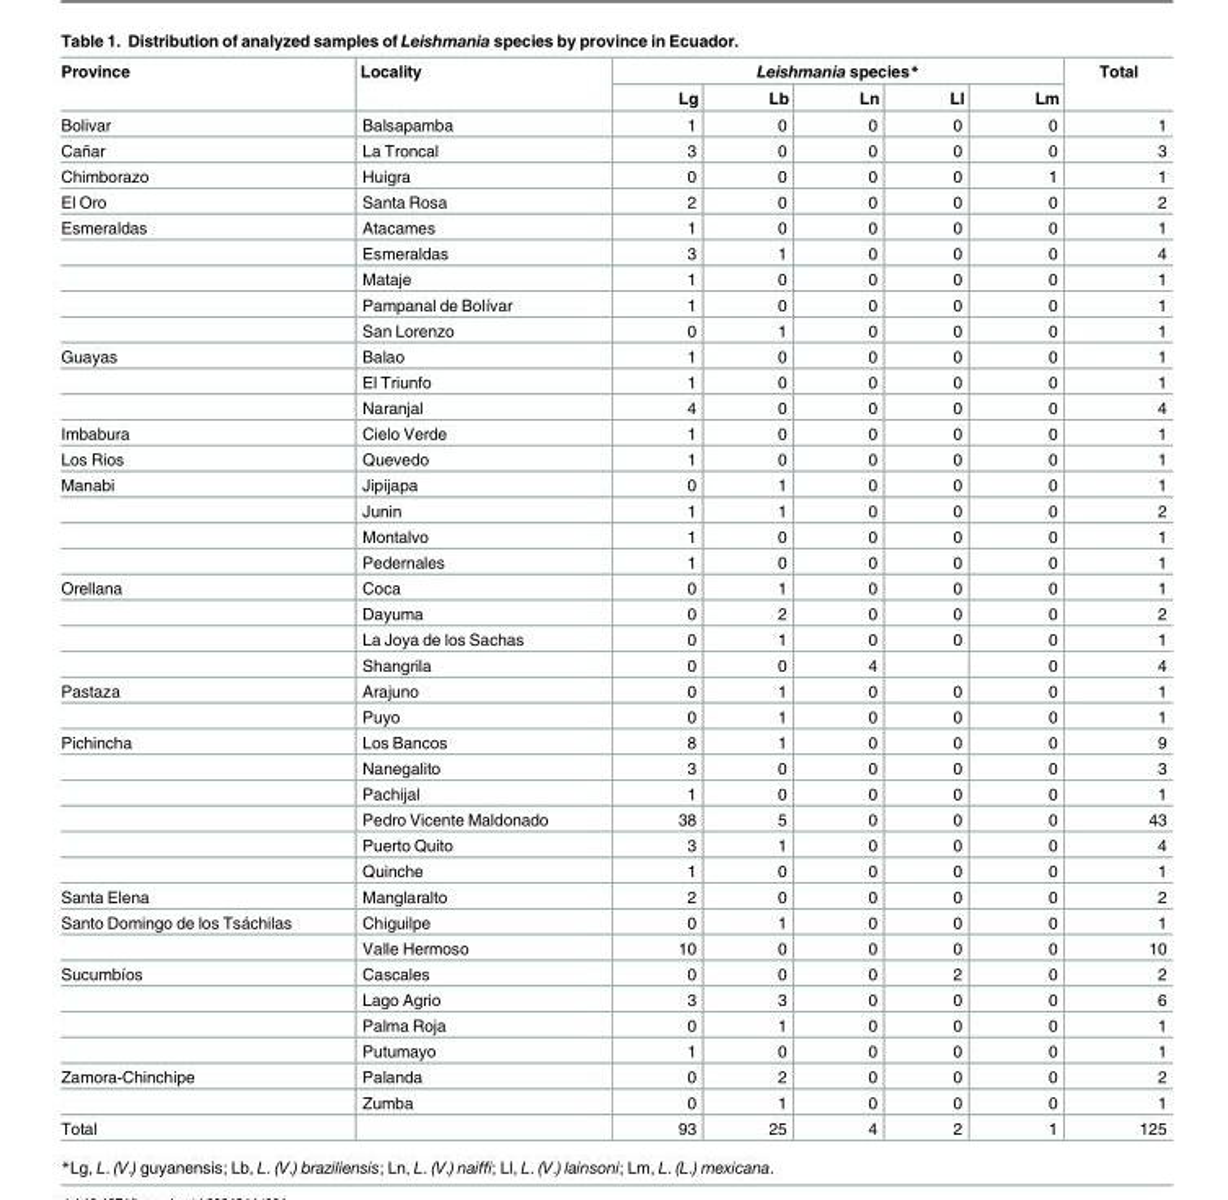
<table><thead><tr><td rowspan="2">Province</td><td rowspan="2">Locality</td><td colspan="5">Leishmania species*</td><td rowspan="2">Total</td></tr><tr><td>Lg</td><td>Lb</td><td>Ln</td><td>Ll</td><td>Lm</td></tr></thead><tbody><tr><td>Bolivar</td><td>Balsapamba</td><td>1</td><td>0</td><td>0</td><td>0</td><td>0</td><td>1</td></tr><tr><td>Cañar</td><td>La Troncal</td><td>3</td><td>0</td><td>0</td><td>0</td><td>0</td><td>3</td></tr><tr><td>Chimborazo</td><td>Huigra</td><td>0</td><td>0</td><td>0</td><td>0</td><td>1</td><td>1</td></tr><tr><td>El Oro</td><td>Santa Rosa</td><td>2</td><td>0</td><td>0</td><td>0</td><td>0</td><td>2</td></tr><tr><td rowspan="5">Esmeraldas</td><td>Atacames</td><td>1</td><td>0</td><td>0</td><td>0</td><td>0</td><td>1</td></tr><tr><td>Esmeraldas</td><td>3</td><td>1</td><td>0</td><td>0</td><td>0</td><td>4</td></tr><tr><td>Mataje</td><td>1</td><td>0</td><td>0</td><td>0</td><td>0</td><td>1</td></tr><tr><td>Pampanal de Bolívar</td><td>1</td><td>0</td><td>0</td><td>0</td><td>0</td><td>1</td></tr><tr><td>San Lorenzo</td><td>0</td><td>1</td><td>0</td><td>0</td><td>0</td><td>1</td></tr><tr><td rowspan="3">Guayas</td><td>Balao</td><td>1</td><td>0</td><td>0</td><td>0</td><td>0</td><td>1</td></tr><tr><td>El Triunfo</td><td>1</td><td>0</td><td>0</td><td>0</td><td>0</td><td>1</td></tr><tr><td>Naranjal</td><td>4</td><td>0</td><td>0</td><td>0</td><td>0</td><td>4</td></tr><tr><td>Imbabura</td><td>Cielo Verde</td><td>1</td><td>0</td><td>0</td><td>0</td><td>0</td><td>1</td></tr><tr><td>Los Rios</td><td>Quevedo</td><td>1</td><td>0</td><td>0</td><td>0</td><td>0</td><td>1</td></tr><tr><td rowspan="4">Manabi</td><td>Jipijapa</td><td>0</td><td>1</td><td>0</td><td>0</td><td>0</td><td>1</td></tr><tr><td>Junin</td><td>1</td><td>1</td><td>0</td><td>0</td><td>0</td><td>2</td></tr><tr><td>Montalvo</td><td>1</td><td>0</td><td>0</td><td>0</td><td>0</td><td>1</td></tr><tr><td>Pedernales</td><td>1</td><td>0</td><td>0</td><td>0</td><td>0</td><td>1</td></tr><tr><td rowspan="4">Orellana</td><td>Coca</td><td>0</td><td>1</td><td>0</td><td>0</td><td>0</td><td>1</td></tr><tr><td>Dayuma</td><td>0</td><td>2</td><td>0</td><td>0</td><td>0</td><td>2</td></tr><tr><td>La Joya de los Sachas</td><td>0</td><td>1</td><td>0</td><td>0</td><td>0</td><td>1</td></tr><tr><td>Shangrila</td><td>0</td><td>0</td><td>4</td><td></td><td>0</td><td>4</td></tr><tr><td rowspan="2">Pastaza</td><td>Arajuno</td><td>0</td><td>1</td><td>0</td><td>0</td><td>0</td><td>1</td></tr><tr><td>Puyo</td><td>0</td><td>1</td><td>0</td><td>0</td><td>0</td><td>1</td></tr><tr><td rowspan="6">Pichincha</td><td>Los Bancos</td><td>8</td><td>1</td><td>0</td><td>0</td><td>0</td><td>9</td></tr><tr><td>Nanegalito</td><td>3</td><td>0</td><td>0</td><td>0</td><td>0</td><td>3</td></tr><tr><td>Pachijal</td><td>1</td><td>0</td><td>0</td><td>0</td><td>0</td><td>1</td></tr><tr><td>Pedro Vicente Maldonado</td><td>38</td><td>5</td><td>0</td><td>0</td><td>0</td><td>43</td></tr><tr><td>Puerto Quito</td><td>3</td><td>1</td><td>0</td><td>0</td><td>0</td><td>4</td></tr><tr><td>Quinche</td><td>1</td><td>0</td><td>0</td><td>0</td><td>0</td><td>1</td></tr><tr><td>Santa Elena</td><td>Manglaralto</td><td>2</td><td>0</td><td>0</td><td>0</td><td>0</td><td>2</td></tr><tr><td rowspan="2">Santo Domingo de los Tsáchilas</td><td>Chiguilpe</td><td>0</td><td>1</td><td>0</td><td>0</td><td>0</td><td>1</td></tr><tr><td>Valle Hermoso</td><td>10</td><td>0</td><td>0</td><td>0</td><td>0</td><td>10</td></tr><tr><td rowspan="4">Sucumbíos</td><td>Cascales</td><td>0</td><td>0</td><td>0</td><td>2</td><td>0</td><td>2</td></tr><tr><td>Lago Agrio</td><td>3</td><td>3</td><td>0</td><td>0</td><td>0</td><td>6</td></tr><tr><td>Palma Roja</td><td>0</td><td>1</td><td>0</td><td>0</td><td>0</td><td>1</td></tr><tr><td>Putumayo</td><td>1</td><td>0</td><td>0</td><td>0</td><td>0</td><td>1</td></tr><tr><td rowspan="2">Zamora-Chinchipe</td><td>Palanda</td><td>0</td><td>2</td><td>0</td><td>0</td><td>0</td><td>2</td></tr><tr><td>Zumba</td><td>0</td><td>1</td><td>0</td><td>0</td><td>0</td><td>1</td></tr><tr><td>Total</td><td></td><td>93</td><td>25</td><td>4</td><td>2</td><td>1</td><td>125</td></tr></tbody></table>